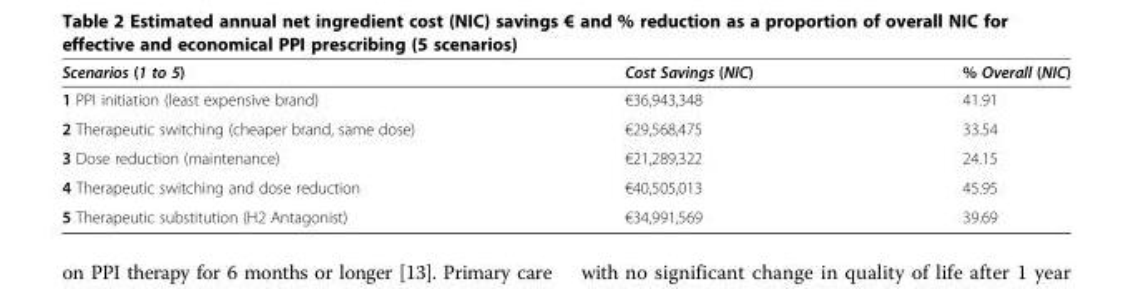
<table><thead><tr><td>Scenarios (1 to 5)</td><td>Cost Savings (NIC)</td><td>% Overall (NIC)</td></tr></thead><tbody><tr><td>1 PPI initiation (least expensive brand)</td><td>€36,943,348</td><td>41.91</td></tr><tr><td>2 Therapeutic switching (cheaper brand, same dose)</td><td>€29,568,475</td><td>33.54</td></tr><tr><td>3 Dose reduction (maintenance)</td><td>€21,289,322</td><td>24.15</td></tr><tr><td>4 Therapeutic switching and dose reduction</td><td>€40,505,013</td><td>45.95</td></tr><tr><td>5 Therapeutic substitution (H2 Antagonist)</td><td>€34,991,569</td><td>39.69</td></tr></tbody></table>